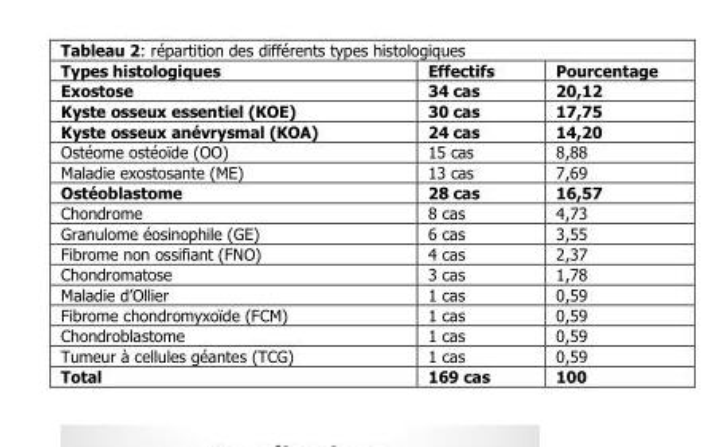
<table><thead><tr><td>Types histologiques</td><td>Effectifs</td><td>Pourcentage</td></tr></thead><tbody><tr><td>Exostose</td><td>34 cas</td><td>20,12</td></tr><tr><td>Kyste osseux essentiel (KOE)</td><td>30 cas</td><td>17,75</td></tr><tr><td>Kyste osseux anévrysmal (KOA)</td><td>24 cas</td><td>14,20</td></tr><tr><td>Ostéome ostéoïde (OO)</td><td>15 cas</td><td>8,88</td></tr><tr><td>Maladie exostosante (ME)</td><td>13 cas</td><td>7,69</td></tr><tr><td>Ostéoblastome</td><td>28 cas</td><td>16,57</td></tr><tr><td>Chondrome</td><td>8 cas</td><td>4,73</td></tr><tr><td>Granulome éosinophile (GE)</td><td>6 cas</td><td>3,55</td></tr><tr><td>Fibrome non ossifiant (FNO)</td><td>4 cas</td><td>2,37</td></tr><tr><td>Chondromatose</td><td>3 cas</td><td>1,78</td></tr><tr><td>Maladie d’Ollier</td><td>1 cas</td><td>0,59</td></tr><tr><td>Fibrome chondromyxoïde (FCM)</td><td>1 cas</td><td>0,59</td></tr><tr><td>Chondroblastome</td><td>1 cas</td><td>0,59</td></tr><tr><td>Tumeur à cellules géantes (TCG)</td><td>1 cas</td><td>0,59</td></tr><tr><td>Total</td><td>169 cas</td><td>100</td></tr></tbody></table>